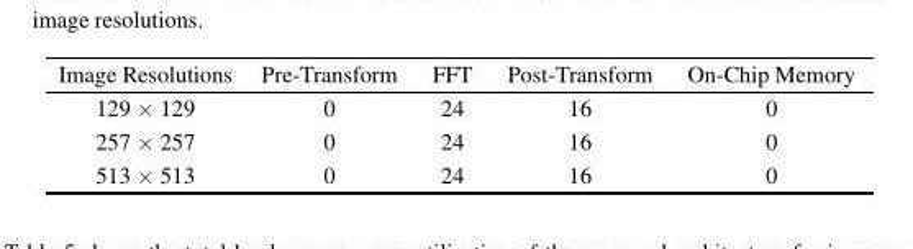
<table><thead><tr><td>Image Resolutions</td><td>Pre-Transform</td><td>FFT</td><td>Post-Transform</td><td>On-Chip Memory</td></tr></thead><tbody><tr><td>129 × 129</td><td>0</td><td>24</td><td>16</td><td>0</td></tr><tr><td>257 × 257</td><td>0</td><td>24</td><td>16</td><td>0</td></tr><tr><td>513 × 513</td><td>0</td><td>24</td><td>16</td><td>0</td></tr></tbody></table>